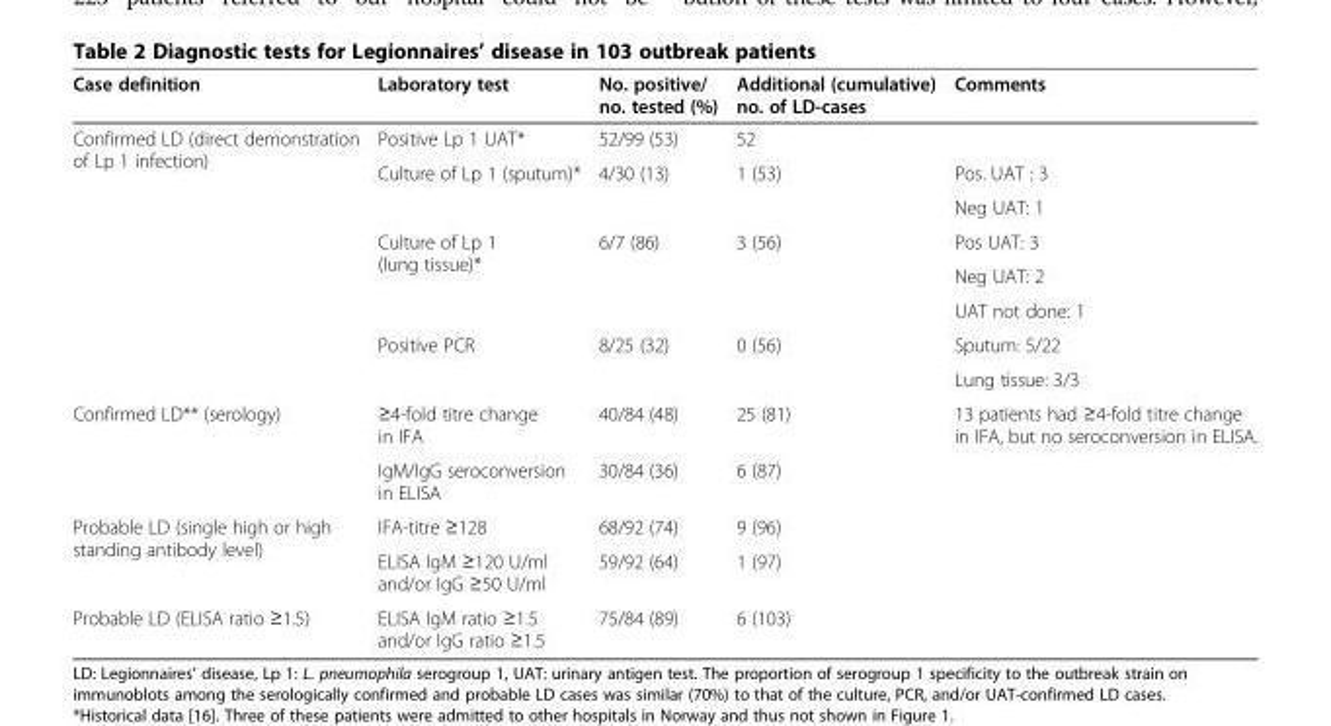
<table><thead><tr><td>Case definition</td><td>Laboratory test</td><td>No. positive/ no. tested (%)</td><td>Additional (cumulative) no. of LD-cases</td><td>Comments</td></tr></thead><tbody><tr><td rowspan="8">Confirmed LD (direct demonstration of Lp 1 infection)</td><td>Positive Lp 1 UAT*</td><td>52/99 (53)</td><td>52</td><td></td></tr><tr><td rowspan="2">Culture of Lp 1 (sputum)*</td><td rowspan="2">4/30 (13)</td><td rowspan="2">1 (53)</td><td>Pos. UAT : 3</td></tr><tr><td>Neg UAT: 1</td></tr><tr><td rowspan="3">Culture of Lp 1 (lung tissue)*</td><td rowspan="3">6/7 (86)</td><td rowspan="3">3 (56)</td><td>Pos UAT: 3</td></tr><tr><td>Neg UAT: 2</td></tr><tr><td>UAT not done: 1</td></tr><tr><td rowspan="2">Positive PCR</td><td rowspan="2">8/25 (32)</td><td rowspan="2">0 (56)</td><td>Sputum: 5/22</td></tr><tr><td>Lung tissue: 3/3</td></tr><tr><td rowspan="2">Confirmed LD** (serology)</td><td>≥4-fold titre change in IFA</td><td>40/84 (48)</td><td>25 (81)</td><td rowspan="2">13 patients had ≥4-fold titre change in IFA, but no seroconversion in ELISA.</td></tr><tr><td>IgM/IgG seroconversion in ELISA</td><td>30/84 (36)</td><td>6 (87)</td></tr><tr><td rowspan="2">Probable LD (single high or high standing antibody level)</td><td>IFA-titre ≥128</td><td>68/92 (74)</td><td>9 (96)</td><td></td></tr><tr><td>ELISA IgM ≥120 U/ml and/or IgG ≥50 U/ml</td><td>59/92 (64)</td><td>1 (97)</td><td></td></tr><tr><td>Probable LD (ELISA ratio ≥1.5)</td><td>ELISA IgM ratio ≥1.5 and/or IgG ratio ≥1.5</td><td>75/84 (89)</td><td>6 (103)</td><td></td></tr></tbody></table>